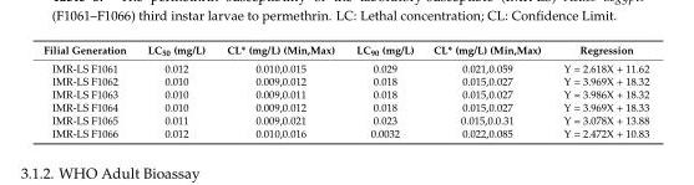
<table><thead><tr><td>Filial Generation</td><td>LC<sub>50</sub> (mg/L)</td><td>CL* (mg/L) (Min,Max)</td><td>LC<sub>90</sub> (mg/L)</td><td>CL* (mg/L) (Min,Max)</td><td>Regression</td></tr></thead><tbody><tr><td>IMR-LS F1061</td><td>0.012</td><td>0.010,0.015</td><td>0.029</td><td>0.021,0.059</td><td>Y = 2.618X + 11.62</td></tr><tr><td>IMR-LS F1062</td><td>0.010</td><td>0.009,0.012</td><td>0.018</td><td>0.015,0.027</td><td>Y = 3.969X + 18.32</td></tr><tr><td>IMR-LS F1063</td><td>0.010</td><td>0.009,0.011</td><td>0.018</td><td>0.015,0.027</td><td>Y = 3.986X + 18.32</td></tr><tr><td>IMR-LS F1064</td><td>0.010</td><td>0.009,0.012</td><td>0.018</td><td>0.015,0.027</td><td>Y = 3.969X + 18.33</td></tr><tr><td>IMR-LS F1065</td><td>0.011</td><td>0.009,0.021</td><td>0.023</td><td>0.015,0.0.31</td><td>Y = 3.078X + 13.88</td></tr><tr><td>IMR-LS F1066</td><td>0.012</td><td>0.010,0.016</td><td>0.0032</td><td>0.022,0.085</td><td>Y = 2.472X + 10.83</td></tr></tbody></table>